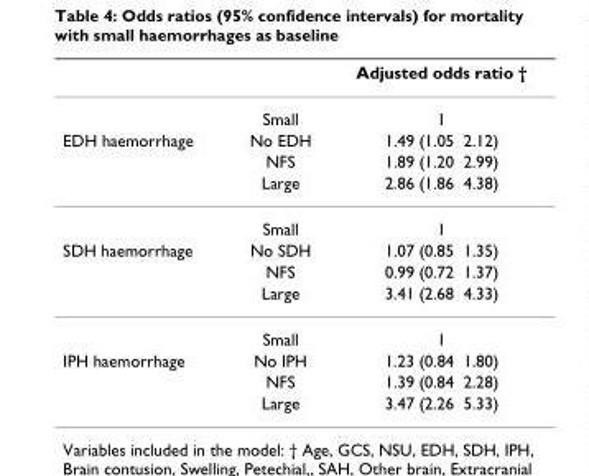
<table><thead><tr><td></td><td></td><td>Adjusted odds ratio †</td></tr></thead><tbody><tr><td></td><td>Small</td><td>1</td></tr><tr><td rowspan="4">EDH haemorrhage</td><td>No EDH</td><td>1.49 (1.05 2.12)</td></tr><tr><td>NFS</td><td>1.89 (1.20 2.99)</td></tr><tr><td>Large</td><td>2.86 (1.86 4.38)</td></tr><tr><td>Small</td><td>1</td></tr><tr><td rowspan="4">SDH haemorrhage</td><td>No SDH</td><td>1.07 (0.85 1.35)</td></tr><tr><td>NFS</td><td>0.99 (0.72 1.37)</td></tr><tr><td>Large</td><td>3.41 (2.68 4.33)</td></tr><tr><td>Small</td><td>1</td></tr><tr><td rowspan="3">IPH haemorrhage</td><td>No IPH</td><td>1.23 (0.84 1.80)</td></tr><tr><td>NFS</td><td>1.39 (0.84 2.28)</td></tr><tr><td>Large</td><td>3.47 (2.26 5.33)</td></tr></tbody></table>